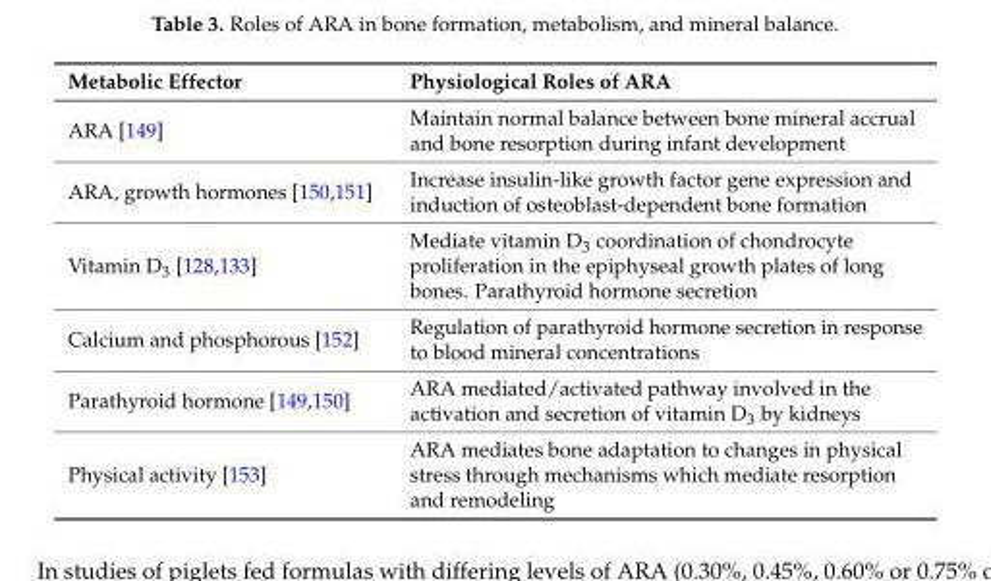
<table><thead><tr><td>Metabolic Effector</td><td>Physiological Roles of ARA</td></tr></thead><tbody><tr><td>ARA [149]</td><td>Maintain normal balance between bone mineral accrual and bone resorption during infant development</td></tr><tr><td>ARA, growth hormones [150,151]</td><td>Increase insulin-like growth factor gene expression and induction of osteoblast-dependent bone formation</td></tr><tr><td>Vitamin D<sub>3</sub> [128,133]</td><td>Mediate vitamin D<sub>3</sub> coordination of chondrocyte proliferation in the epiphyseal growth plates of long bones. Parathyroid hormone secretion</td></tr><tr><td>Calcium and phosphorous [152]</td><td>Regulation of parathyroid hormone secretion in response to blood mineral concentrations</td></tr><tr><td>Parathyroid hormone [149,150]</td><td>ARA mediated/activated pathway involved in the activation and secretion of vitamin D<sub>3</sub> by kidneys</td></tr><tr><td>Physical activity [153]</td><td>ARA mediates bone adaptation to changes in physical stress through mechanisms which mediate resorption and remodeling</td></tr></tbody></table>